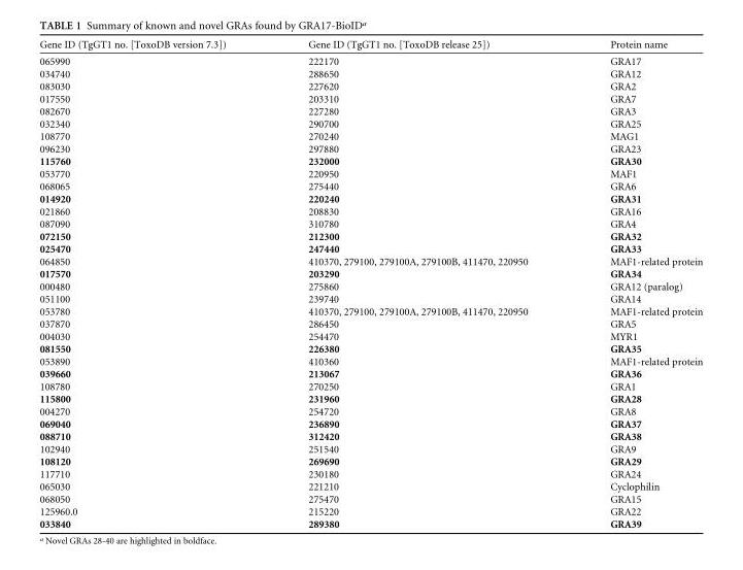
<table><thead><tr><td>Gene ID (TgGT1 no. [ToxoDB version 7.3])</td><td>Gene ID (TgGT1 no. [ToxoDB release 25])</td><td>Protein name</td></tr></thead><tbody><tr><td>065990</td><td>222170</td><td>GRA17</td></tr><tr><td>034740</td><td>288650</td><td>GRA12</td></tr><tr><td>083030</td><td>227620</td><td>GRA2</td></tr><tr><td>017550</td><td>203310</td><td>GRA7</td></tr><tr><td>082670</td><td>227280</td><td>GRA3</td></tr><tr><td>032340</td><td>290700</td><td>GRA25</td></tr><tr><td>108770</td><td>270240</td><td>MAG1</td></tr><tr><td>096230</td><td>297880</td><td>GRA23</td></tr><tr><td>115760</td><td>232000</td><td>GRA30</td></tr><tr><td>053770</td><td>220950</td><td>MAF1</td></tr><tr><td>068065</td><td>275440</td><td>GRA6</td></tr><tr><td>014920</td><td>220240</td><td>GRA31</td></tr><tr><td>021860</td><td>208830</td><td>GRA16</td></tr><tr><td>087090</td><td>310780</td><td>GRA4</td></tr><tr><td>072150</td><td>212300</td><td>GRA32</td></tr><tr><td>025470</td><td>247440</td><td>GRA33</td></tr><tr><td>064850</td><td>410370, 279100, 279100A, 279100B, 411470, 220950</td><td>MAF1-related protein</td></tr><tr><td>017570</td><td>203290</td><td>GRA34</td></tr><tr><td>000480</td><td>275860</td><td>GRA12 (paralog)</td></tr><tr><td>051100</td><td>239740</td><td>GRA14</td></tr><tr><td>053780</td><td>410370, 279100, 279100A, 279100B, 411470, 220950</td><td>MAF1-related protein</td></tr><tr><td>037870</td><td>286450</td><td>GRA5</td></tr><tr><td>004030</td><td>254470</td><td>MYR1</td></tr><tr><td>081550</td><td>226380</td><td>GRA35</td></tr><tr><td>053890</td><td>410360</td><td>MAF1-related protein</td></tr><tr><td>039660</td><td>213067</td><td>GRA36</td></tr><tr><td>108780</td><td>270250</td><td>GRA1</td></tr><tr><td>115800</td><td>231960</td><td>GRA28</td></tr><tr><td>004270</td><td>254720</td><td>GRA8</td></tr><tr><td>069040</td><td>236890</td><td>GRA37</td></tr><tr><td>088710</td><td>312420</td><td>GRA38</td></tr><tr><td>102940</td><td>251540</td><td>GRA9</td></tr><tr><td>108120</td><td>269690</td><td>GRA29</td></tr><tr><td>117710</td><td>230180</td><td>GRA24</td></tr><tr><td>065030</td><td>221210</td><td>Cyclophilin</td></tr><tr><td>068050</td><td>275470</td><td>GRA15</td></tr><tr><td>125960.0</td><td>215220</td><td>GRA22</td></tr><tr><td>033840</td><td>289380</td><td>GRA39</td></tr></tbody></table>